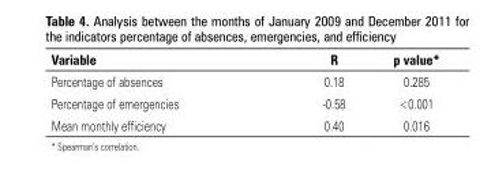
<table><thead><tr><td>Variable</td><td>R</td><td>p value*</td></tr></thead><tbody><tr><td>Percentage of absences</td><td>0.18</td><td>0.285</td></tr><tr><td>Percentage of emergencies</td><td>-0.58</td><td>&lt;0.001</td></tr><tr><td>Mean monthly efficiency</td><td>0.40</td><td>0.016</td></tr></tbody></table>